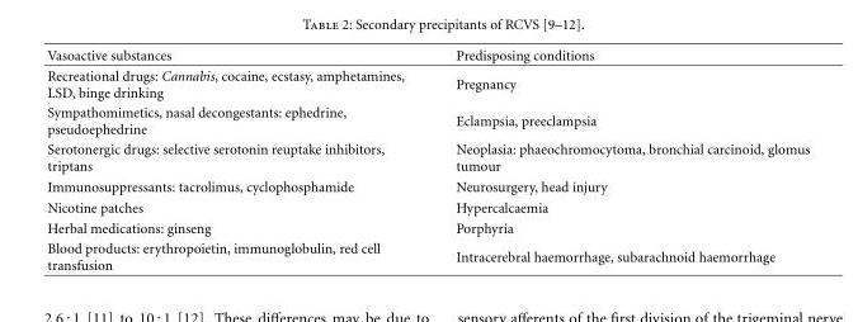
<table><thead><tr><td>Vasoactive substances</td><td>Predisposing conditions</td></tr></thead><tbody><tr><td>Recreational drugs: Cannabis, cocaine, ecstasy, amphetamines, LSD, binge drinking</td><td>Pregnancy</td></tr><tr><td>Sympathomimetics, nasal decongestants: ephedrine, pseudoephedrine</td><td>Eclampsia, preeclampsia</td></tr><tr><td>Serotonergic drugs: selective serotonin reuptake inhibitors, triptans</td><td>Neoplasia: phaeochromocytoma, bronchial carcinoid, glomus tumour</td></tr><tr><td>Immunosuppressants: tacrolimus, cyclophosphamide</td><td>Neurosurgery, head injury</td></tr><tr><td>Nicotine patches</td><td>Hypercalcaemia</td></tr><tr><td>Herbal medications: ginseng</td><td>Porphyria</td></tr><tr><td>Blood products: erythropoietin, immunoglobulin, red cell transfusion</td><td>Intracerebral haemorrhage, subarachnoid haemorrhage</td></tr></tbody></table>